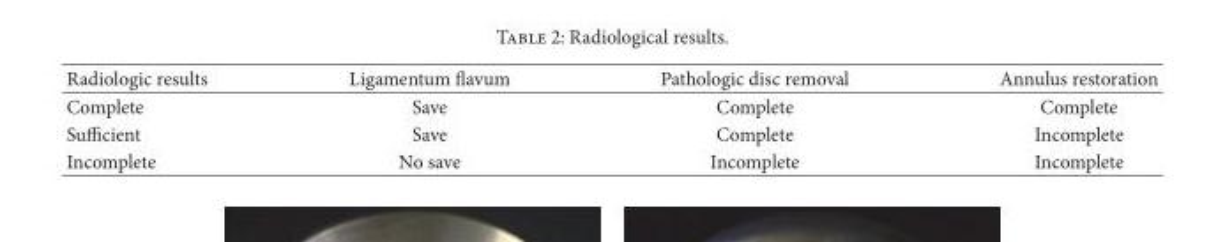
<table><thead><tr><td>Radiologic results</td><td>Ligamentum flavum</td><td>Pathologic disc removal</td><td>Annulus restoration</td></tr></thead><tbody><tr><td>Complete</td><td>Save</td><td>Complete</td><td>Complete</td></tr><tr><td>Sufficient</td><td>Save</td><td>Complete</td><td>Incomplete</td></tr><tr><td>Incomplete</td><td>No save</td><td>Incomplete</td><td>Incomplete</td></tr></tbody></table>